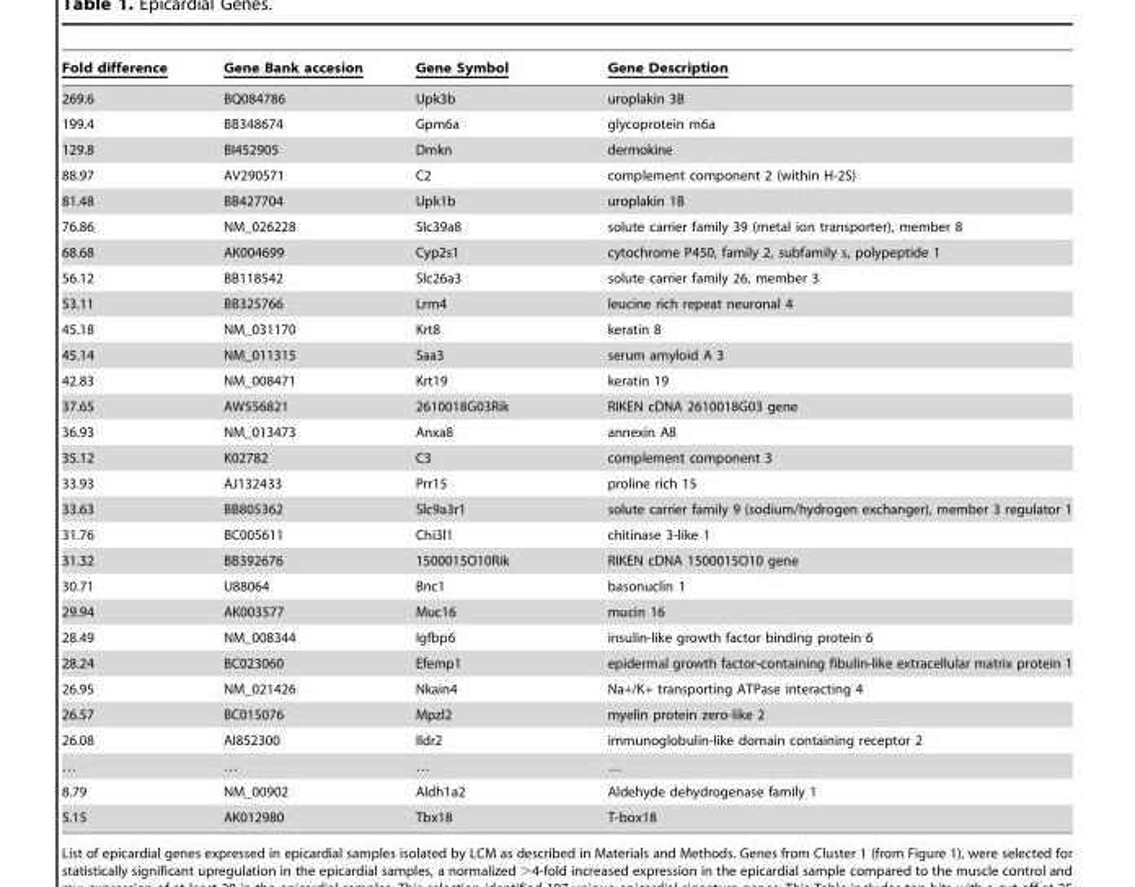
<table><thead><tr><td>Fold difference</td><td>Gene Bank accesion</td><td>Gene Symbol</td><td>Gene Description</td></tr></thead><tbody><tr><td>269.6</td><td>BQ084786</td><td>Upk3b</td><td>uroplakin 3B</td></tr><tr><td>199.4</td><td>BB348674</td><td>Gpm6a</td><td>glycoprotein m6a</td></tr><tr><td>129.8</td><td>BI452905</td><td>Dmkn</td><td>dermokine</td></tr><tr><td>88.97</td><td>AV290571</td><td>C2</td><td>complement component 2 (within H-2S)</td></tr><tr><td>81.48</td><td>BB427704</td><td>Upk1b</td><td>uroplakin 1B</td></tr><tr><td>76.86</td><td>NM_026228</td><td>Slc39a8</td><td>solute carrier family 39 (metal ion transporter), member 8</td></tr><tr><td>68.68</td><td>AK004699</td><td>Cyp2s1</td><td>cytochrome P450, family 2, subfamily s, polypeptide 1</td></tr><tr><td>56.12</td><td>BB118542</td><td>Slc26a3</td><td>solute carrier family 26, member 3</td></tr><tr><td>53.11</td><td>BB325766</td><td>Lrrn4</td><td>leucine rich repeat neuronal 4</td></tr><tr><td>45.18</td><td>NM_031170</td><td>Krt8</td><td>keratin 8</td></tr><tr><td>45.14</td><td>NM_011315</td><td>Saa3</td><td>serum amyloid A 3</td></tr><tr><td>42.83</td><td>NM_008471</td><td>Krt19</td><td>keratin 19</td></tr><tr><td>37.65</td><td>AW556821</td><td>2610018G03Rik</td><td>RIKEN cDNA 2610018G03 gene</td></tr><tr><td>36.93</td><td>NM_013473</td><td>Anxa8</td><td>annexin A8</td></tr><tr><td>35.12</td><td>K02782</td><td>C3</td><td>complement component 3</td></tr><tr><td>33.93</td><td>AJ132433</td><td>Prr15</td><td>proline rich 15</td></tr><tr><td>33.63</td><td>BB805362</td><td>Slc9a3r1</td><td>solute carrier family 9 (sodium/hydrogen exchanger), member 3 regulator 1</td></tr><tr><td>31.76</td><td>BC005611</td><td>Chi3l1</td><td>chitinase 3-like 1</td></tr><tr><td>31.32</td><td>BB392676</td><td>1500015O10Rik</td><td>RIKEN cDNA 1500015O10 gene</td></tr><tr><td>30.71</td><td>U88064</td><td>Bnc1</td><td>basonuclin 1</td></tr><tr><td>29.94</td><td>AK003577</td><td>Muc16</td><td>mucin 16</td></tr><tr><td>28.49</td><td>NM_008344</td><td>Igfbp6</td><td>insulin-like growth factor binding protein 6</td></tr><tr><td>28.24</td><td>BC023060</td><td>Efemp1</td><td>epidermal growth factor-containing fibulin-like extracellular matrix protein 1</td></tr><tr><td>26.95</td><td>NM_021426</td><td>Nkain4</td><td>Na+/K+ transporting ATPase interacting 4</td></tr><tr><td>26.57</td><td>BC015076</td><td>Mpzl2</td><td>myelin protein zero-like 2</td></tr><tr><td>26.08</td><td>AI852300</td><td>Ildr2</td><td>immunoglobulin-like domain containing receptor 2</td></tr><tr><td>…</td><td>…</td><td>…</td><td>…</td></tr><tr><td>8.79</td><td>NM_00902</td><td>Aldh1a2</td><td>Aldehyde dehydrogenase family 1</td></tr><tr><td>5.15</td><td>AK012980</td><td>Tbx18</td><td>T-box18</td></tr></tbody></table>